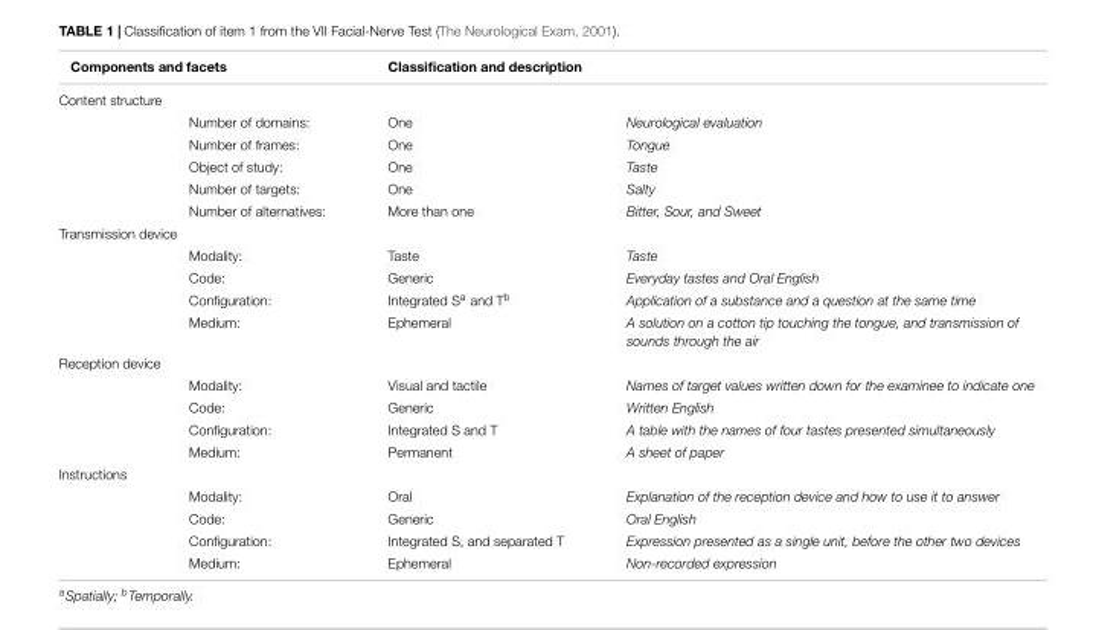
<table><thead><tr><td colspan="2">Components and facets</td><td colspan="2">Classification and description</td></tr><tr><td colspan="4">Content structure</td></tr><tr><td></td><td>Number of domains:</td><td>One</td><td>Neurological evaluation</td></tr></thead><tbody><tr><td></td><td>Number of frames:</td><td>One</td><td>Tongue</td></tr><tr><td></td><td>Object of study:</td><td>One</td><td>Taste</td></tr><tr><td></td><td>Number of targets:</td><td>One</td><td>Salty</td></tr><tr><td></td><td>Number of alternatives:</td><td>More than one</td><td>Bitter, Sour, and Sweet</td></tr><tr><td colspan="4">Transmission device</td></tr><tr><td></td><td>Modality:</td><td>Taste</td><td>Taste</td></tr><tr><td></td><td>Code:</td><td>Generic</td><td>Everyday tastes and Oral English</td></tr><tr><td></td><td>Configuration:</td><td>Integrated S<sup>a</sup> and T<sup>b</sup></td><td>Application of a substance and a question at the same time</td></tr><tr><td></td><td>Medium:</td><td>Ephemeral</td><td>A solution on a cotton tip touching the tongue, and transmission of sounds through the air</td></tr><tr><td colspan="4">Reception device</td></tr><tr><td></td><td>Modality:</td><td>Visual and tactile</td><td>Names of target values written down for the examinee to indicate one</td></tr><tr><td></td><td>Code:</td><td>Generic</td><td>Written English</td></tr><tr><td></td><td>Configuration:</td><td>Integrated S and T</td><td>A table with the names of four tastes presented simultaneously</td></tr><tr><td></td><td>Medium:</td><td>Permanent</td><td>A sheet of paper</td></tr><tr><td colspan="4">Instructions</td></tr><tr><td></td><td>Modality:</td><td>Oral</td><td>Explanation of the reception device and how to use it to answer</td></tr><tr><td></td><td>Code:</td><td>Generic</td><td>Oral English</td></tr><tr><td></td><td>Configuration:</td><td>Integrated S, and separated T</td><td>Expression presented as a single unit, before the other two devices</td></tr><tr><td></td><td>Medium:</td><td>Ephemeral</td><td>Non-recorded expression</td></tr></tbody></table>